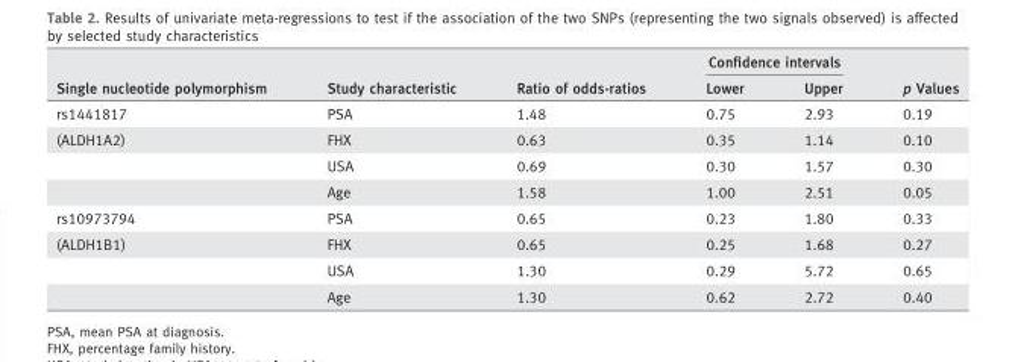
<table><thead><tr><td rowspan="2">Single nucleotide polymorphism</td><td rowspan="2">Study characteristic</td><td rowspan="2">Ratio of odds-ratios</td><td colspan="2">Confidence intervals</td><td rowspan="2">p Values</td></tr><tr><td>Lower</td><td>Upper</td></tr></thead><tbody><tr><td>rs1441817</td><td>PSA</td><td>1.48</td><td>0.75</td><td>2.93</td><td>0.19</td></tr><tr><td rowspan="3">(ALDH1A2)</td><td>FHX</td><td>0.63</td><td>0.35</td><td>1.14</td><td>0.10</td></tr><tr><td>USA</td><td>0.69</td><td>0.30</td><td>1.57</td><td>0.30</td></tr><tr><td>Age</td><td>1.58</td><td>1.00</td><td>2.51</td><td>0.05</td></tr><tr><td>rs10973794</td><td>PSA</td><td>0.65</td><td>0.23</td><td>1.80</td><td>0.33</td></tr><tr><td rowspan="3">(ALDH1B1)</td><td>FHX</td><td>0.65</td><td>0.25</td><td>1.68</td><td>0.27</td></tr><tr><td>USA</td><td>1.30</td><td>0.29</td><td>5.72</td><td>0.65</td></tr><tr><td>Age</td><td>1.30</td><td>0.62</td><td>2.72</td><td>0.40</td></tr></tbody></table>